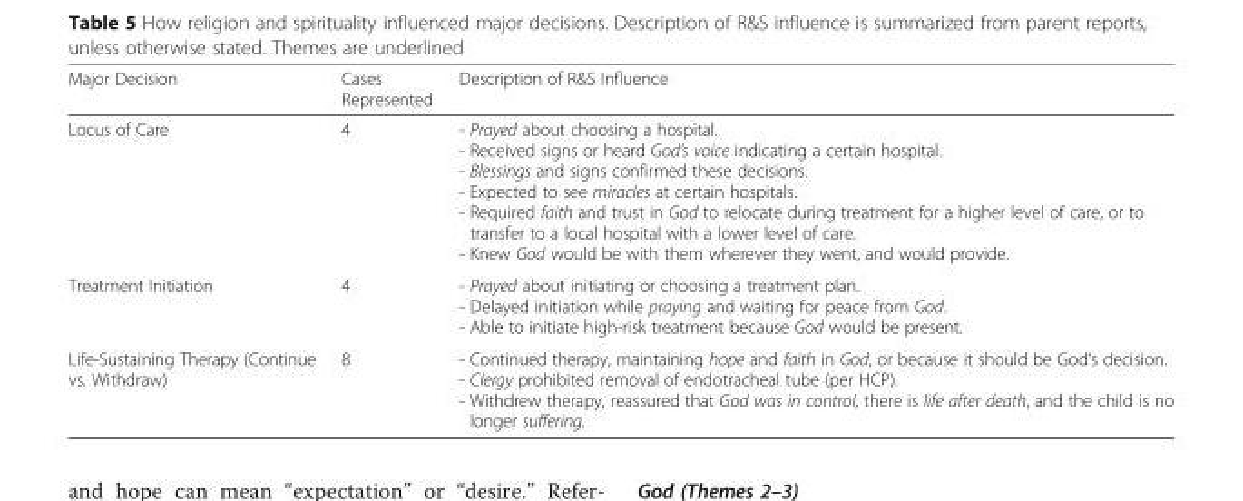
<table><thead><tr><td>Major Decision</td><td>Cases Represented</td><td>Description of R&amp;S Influence</td></tr></thead><tbody><tr><td>Locus of Care</td><td>4</td><td>- Prayed about choosing a hospital. - Received signs or heard God’s voice indicating a certain hospital. - Blessings and signs confirmed these decisions. - Expected to see miracles at certain hospitals. - Required faith and trust in God to relocate during treatment for a higher level of care, or to transfer to a local hospital with a lower level of care. - Knew God would be with them wherever they went, and would provide.</td></tr><tr><td>Treatment Initiation</td><td>4</td><td>- Prayed about initiating or choosing a treatment plan. - Delayed initiation while praying and waiting for peace from God. - Able to initiate high-risk treatment because God would be present.</td></tr><tr><td>Life-Sustaining Therapy (Continue vs. Withdraw)</td><td>8</td><td>- Continued therapy, maintaining hope and faith in God, or because it should be God’s decision. - Clergy prohibited removal of endotracheal tube (per HCP). - Withdrew therapy, reassured that God was in control, there is life after death, and the child is no longer suffering.</td></tr></tbody></table>